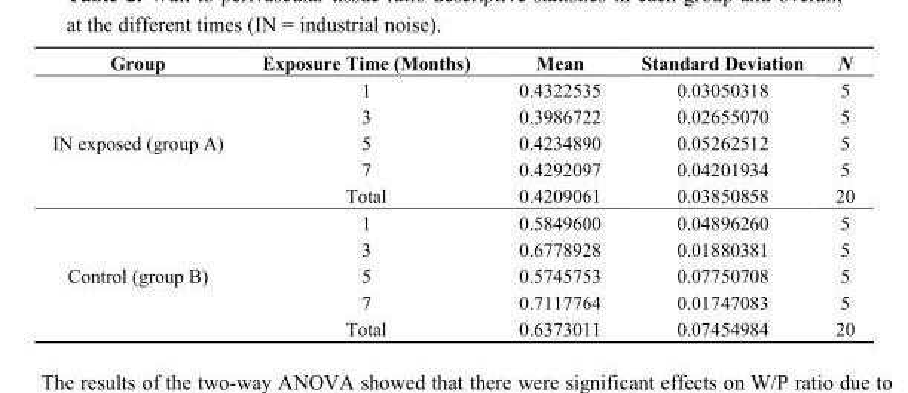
<table><thead><tr><td>Group</td><td>Exposure Time (Months)</td><td>Mean</td><td>Standard Deviation</td><td>N</td></tr></thead><tbody><tr><td rowspan="5">IN exposed (group A)</td><td>1</td><td>0.4322535</td><td>0.03050318</td><td>5</td></tr><tr><td>3</td><td>0.3986722</td><td>0.02655070</td><td>5</td></tr><tr><td>5</td><td>0.4234890</td><td>0.05262512</td><td>5</td></tr><tr><td>7</td><td>0.4292097</td><td>0.04201934</td><td>5</td></tr><tr><td>Total</td><td>0.4209061</td><td>0.03850858</td><td>20</td></tr><tr><td rowspan="5">Control (group B)</td><td>1</td><td>0.5849600</td><td>0.04896260</td><td>5</td></tr><tr><td>3</td><td>0.6778928</td><td>0.01880381</td><td>5</td></tr><tr><td>5</td><td>0.5745753</td><td>0.07750708</td><td>5</td></tr><tr><td>7</td><td>0.7117764</td><td>0.01747083</td><td>5</td></tr><tr><td>Total</td><td>0.6373011</td><td>0.07454984</td><td>20</td></tr></tbody></table>